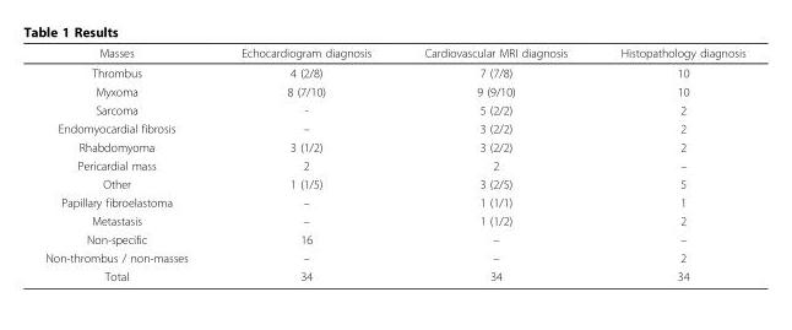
<table><thead><tr><td>Masses</td><td>Echocardiogram diagnosis</td><td>Cardiovascular MRI diagnosis</td><td>Histopathology diagnosis</td></tr></thead><tbody><tr><td>Thrombus</td><td>4 (2/8)</td><td>7 (7/8)</td><td>10</td></tr><tr><td>Myxoma</td><td>8 (7/10)</td><td>9 (9/10)</td><td>10</td></tr><tr><td>Sarcoma</td><td>-</td><td>5 (2/2)</td><td>2</td></tr><tr><td>Endomyocardial fibrosis</td><td>–</td><td>3 (2/2)</td><td>2</td></tr><tr><td>Rhabdomyoma</td><td>3 (1/2)</td><td>3 (2/2)</td><td>2</td></tr><tr><td>Pericardial mass</td><td>2</td><td>2</td><td>–</td></tr><tr><td>Other</td><td>1 (1/5)</td><td>3 (2/5)</td><td>5</td></tr><tr><td>Papillary fibroelastoma</td><td>–</td><td>1 (1/1)</td><td>1</td></tr><tr><td>Metastasis</td><td>–</td><td>1 (1/2)</td><td>2</td></tr><tr><td>Non-specific</td><td>16</td><td>–</td><td>–</td></tr><tr><td>Non-thrombus / non-masses</td><td>–</td><td>–</td><td>2</td></tr><tr><td>Total</td><td>34</td><td>34</td><td>34</td></tr></tbody></table>